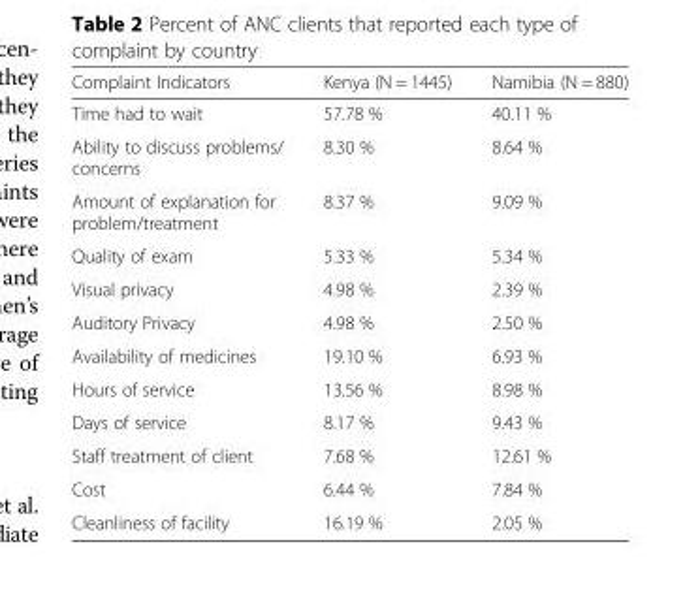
<table><thead><tr><td>Complaint Indicators</td><td>Kenya (N = 1445)</td><td>Namibia (N = 880)</td></tr></thead><tbody><tr><td>Time had to wait</td><td>57.78 %</td><td>40.11 %</td></tr><tr><td>Ability to discuss problems/ concerns</td><td>8.30 %</td><td>8.64 %</td></tr><tr><td>Amount of explanation for problem/treatment</td><td>8.37 %</td><td>9.09 %</td></tr><tr><td>Quality of exam</td><td>5.33 %</td><td>5.34 %</td></tr><tr><td>Visual privacy</td><td>4.98 %</td><td>2.39 %</td></tr><tr><td>Auditory Privacy</td><td>4.98 %</td><td>2.50 %</td></tr><tr><td>Availability of medicines</td><td>19.10 %</td><td>6.93 %</td></tr><tr><td>Hours of service</td><td>13.56 %</td><td>8.98 %</td></tr><tr><td>Days of service</td><td>8.17 %</td><td>9.43 %</td></tr><tr><td>Staff treatment of client</td><td>7.68 %</td><td>12.61 %</td></tr><tr><td>Cost</td><td>6.44 %</td><td>7.84 %</td></tr><tr><td>Cleanliness of facility</td><td>16.19 %</td><td>2.05 %</td></tr></tbody></table>